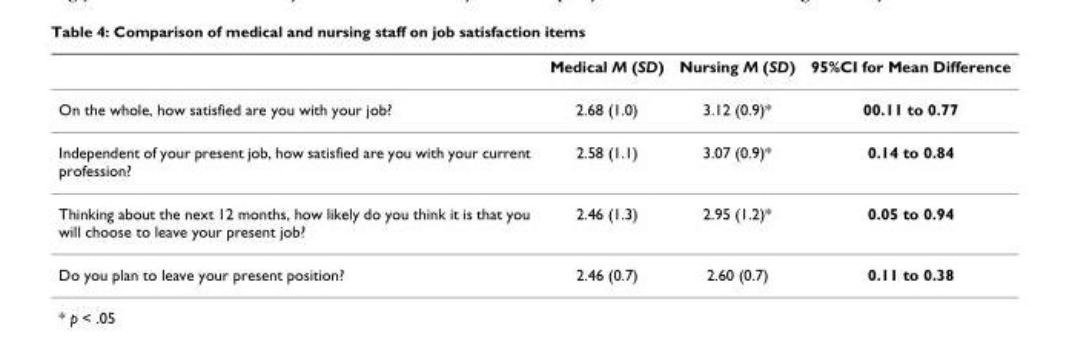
<table><thead><tr><td></td><td>Medical M (SD)</td><td>Nursing M (SD)</td><td>95%CI for Mean Difference</td></tr></thead><tbody><tr><td>On the whole, how satisfied are you with your job?</td><td>2.68 (1.0)</td><td>3.12 (0.9)*</td><td>00.11 to 0.77</td></tr><tr><td>Independent of your present job, how satisfied are you with your current profession?</td><td>2.58 (1.1)</td><td>3.07 (0.9)*</td><td>0.14 to 0.84</td></tr><tr><td>Thinking about the next 12 months, how likely do you think it is that you will choose to leave your present job?</td><td>2.46 (1.3)</td><td>2.95 (1.2)*</td><td>0.05 to 0.94</td></tr><tr><td>Do you plan to leave your present position?</td><td>2.46 (0.7)</td><td>2.60 (0.7)</td><td>0.11 to 0.38</td></tr></tbody></table>